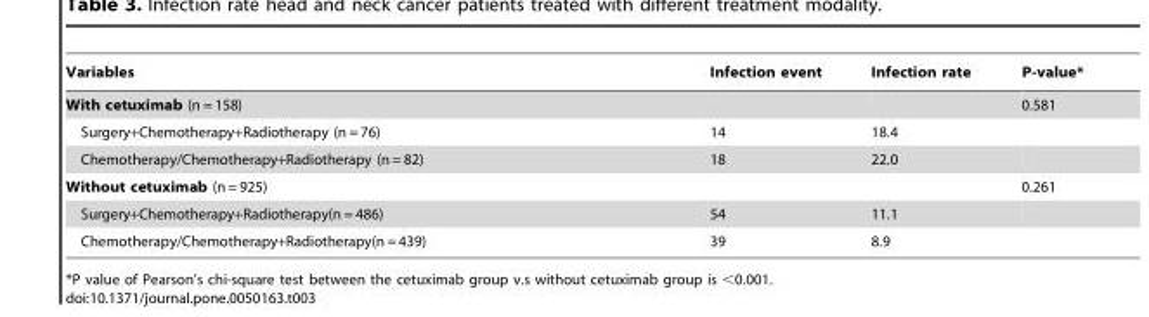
<table><thead><tr><td>Variables</td><td>Infection event</td><td>Infection rate</td><td>P-value*</td></tr></thead><tbody><tr><td>With cetuximab (n = 158)</td><td></td><td></td><td>0.581</td></tr><tr><td>Surgery+Chemotherapy+Radiotherapy (n = 76)</td><td>14</td><td>18.4</td><td></td></tr><tr><td>Chemotherapy/Chemotherapy+Radiotherapy (n = 82)</td><td>18</td><td>22.0</td><td></td></tr><tr><td>Without cetuximab (n = 925)</td><td></td><td></td><td>0.261</td></tr><tr><td>Surgery+Chemotherapy+Radiotherapy(n = 486)</td><td>54</td><td>11.1</td><td></td></tr><tr><td>Chemotherapy/Chemotherapy+Radiotherapy(n = 439)</td><td>39</td><td>8.9</td><td></td></tr></tbody></table>